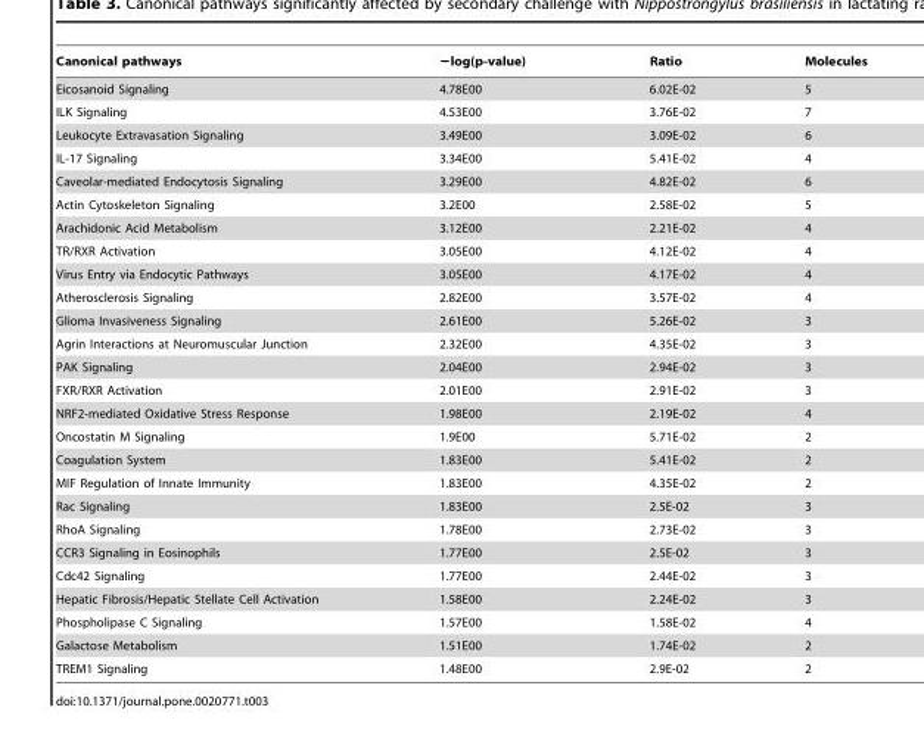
<table><thead><tr><td>Canonical pathways</td><td>−log(p-value)</td><td>Ratio</td><td>Molecules</td></tr></thead><tbody><tr><td>Eicosanoid Signaling</td><td>4.78E00</td><td>6.02E-02</td><td>5</td></tr><tr><td>ILK Signaling</td><td>4.53E00</td><td>3.76E-02</td><td>7</td></tr><tr><td>Leukocyte Extravasation Signaling</td><td>3.49E00</td><td>3.09E-02</td><td>6</td></tr><tr><td>IL-17 Signaling</td><td>3.34E00</td><td>5.41E-02</td><td>4</td></tr><tr><td>Caveolar-mediated Endocytosis Signaling</td><td>3.29E00</td><td>4.82E-02</td><td>6</td></tr><tr><td>Actin Cytoskeleton Signaling</td><td>3.2E00</td><td>2.58E-02</td><td>5</td></tr><tr><td>Arachidonic Acid Metabolism</td><td>3.12E00</td><td>2.21E-02</td><td>4</td></tr><tr><td>TR/RXR Activation</td><td>3.05E00</td><td>4.12E-02</td><td>4</td></tr><tr><td>Virus Entry via Endocytic Pathways</td><td>3.05E00</td><td>4.17E-02</td><td>4</td></tr><tr><td>Atherosclerosis Signaling</td><td>2.82E00</td><td>3.57E-02</td><td>4</td></tr><tr><td>Glioma Invasiveness Signaling</td><td>2.61E00</td><td>5.26E-02</td><td>3</td></tr><tr><td>Agrin Interactions at Neuromuscular Junction</td><td>2.32E00</td><td>4.35E-02</td><td>3</td></tr><tr><td>PAK Signaling</td><td>2.04E00</td><td>2.94E-02</td><td>3</td></tr><tr><td>FXR/RXR Activation</td><td>2.01E00</td><td>2.91E-02</td><td>3</td></tr><tr><td>NRF2-mediated Oxidative Stress Response</td><td>1.98E00</td><td>2.19E-02</td><td>4</td></tr><tr><td>Oncostatin M Signaling</td><td>1.9E00</td><td>5.71E-02</td><td>2</td></tr><tr><td>Coagulation System</td><td>1.83E00</td><td>5.41E-02</td><td>2</td></tr><tr><td>MIF Regulation of Innate Immunity</td><td>1.83E00</td><td>4.35E-02</td><td>2</td></tr><tr><td>Rac Signaling</td><td>1.83E00</td><td>2.5E-02</td><td>3</td></tr><tr><td>RhoA Signaling</td><td>1.78E00</td><td>2.73E-02</td><td>3</td></tr><tr><td>CCR3 Signaling in Eosinophils</td><td>1.77E00</td><td>2.5E-02</td><td>3</td></tr><tr><td>Cdc42 Signaling</td><td>1.77E00</td><td>2.44E-02</td><td>3</td></tr><tr><td>Hepatic Fibrosis/Hepatic Stellate Cell Activation</td><td>1.58E00</td><td>2.24E-02</td><td>3</td></tr><tr><td>Phospholipase C Signaling</td><td>1.57E00</td><td>1.58E-02</td><td>4</td></tr><tr><td>Galactose Metabolism</td><td>1.51E00</td><td>1.74E-02</td><td>2</td></tr><tr><td>TREM1 Signaling</td><td>1.48E00</td><td>2.9E-02</td><td>2</td></tr></tbody></table>